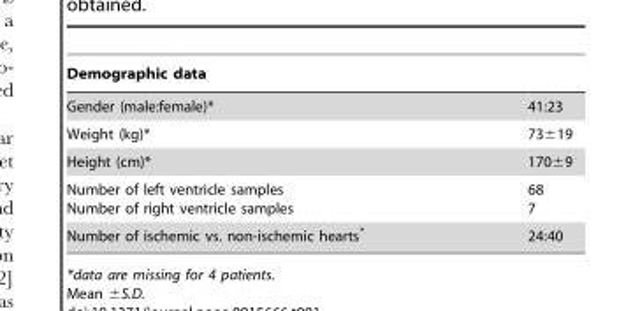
<table><thead><tr><td>Demographic data</td><td></td></tr></thead><tbody><tr><td>Gender (male:female)*</td><td>41:23</td></tr><tr><td>Weight (kg)*</td><td>73±19</td></tr><tr><td>Height (cm)*</td><td>170±9</td></tr><tr><td>Number of left ventricle samples Number of right ventricle samples</td><td>68 7</td></tr><tr><td>Number of ischemic vs. non-ischemic hearts*</td><td>24:40</td></tr></tbody></table>